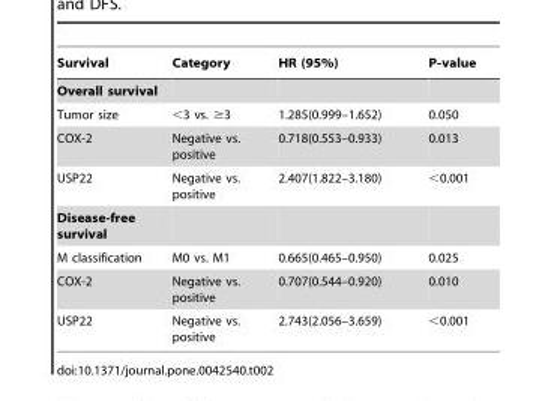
<table><thead><tr><td>Survival</td><td>Category</td><td>HR (95%)</td><td>P-value</td></tr></thead><tbody><tr><td colspan="4">Overall survival</td></tr><tr><td>Tumor size</td><td>&lt;3 vs. ≥3</td><td>1.285(0.999–1.652)</td><td>0.050</td></tr><tr><td>COX-2</td><td>Negative vs. positive</td><td>0.718(0.553–0.933)</td><td>0.013</td></tr><tr><td>USP22</td><td>Negative vs. positive</td><td>2.407(1.822–3.180)</td><td>&lt;0.001</td></tr><tr><td colspan="4">Disease-free survival</td></tr><tr><td>M classification</td><td>M0 vs. M1</td><td>0.665(0.465–0.950)</td><td>0.025</td></tr><tr><td>COX-2</td><td>Negative vs. positive</td><td>0.707(0.544–0.920)</td><td>0.010</td></tr><tr><td>USP22</td><td>Negative vs. positive</td><td>2.743(2.056–3.659)</td><td>&lt;0.001</td></tr></tbody></table>